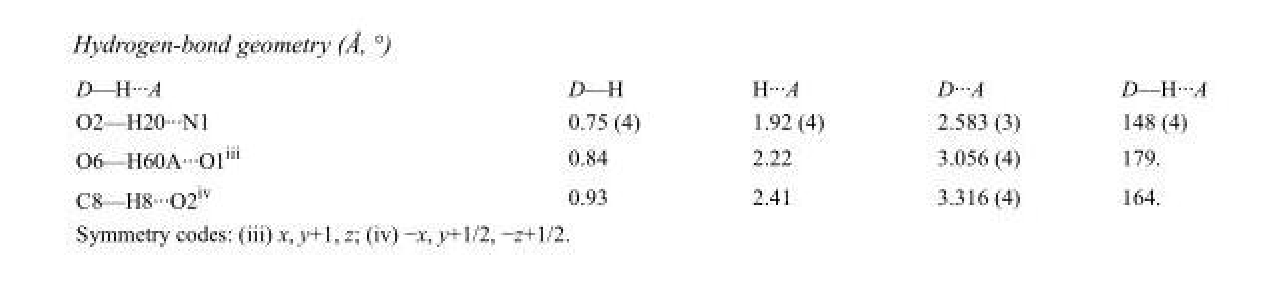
<table><tbody><tr><td>D—H···A</td><td>D—H</td><td>H···A</td><td>D···A</td><td>D—H···A</td></tr><tr><td>O2—H20···N1</td><td>0.75 (4)</td><td>1.92 (4)</td><td>2.583 (3)</td><td>148 (4)</td></tr><tr><td>O6—H60A···O1<sup>iii</sup></td><td>0.84</td><td>2.22</td><td>3.056 (4)</td><td>179.</td></tr><tr><td>C8—H8···O2<sup>iv</sup></td><td>0.93</td><td>2.41</td><td>3.316 (4)</td><td>164.</td></tr></tbody></table>